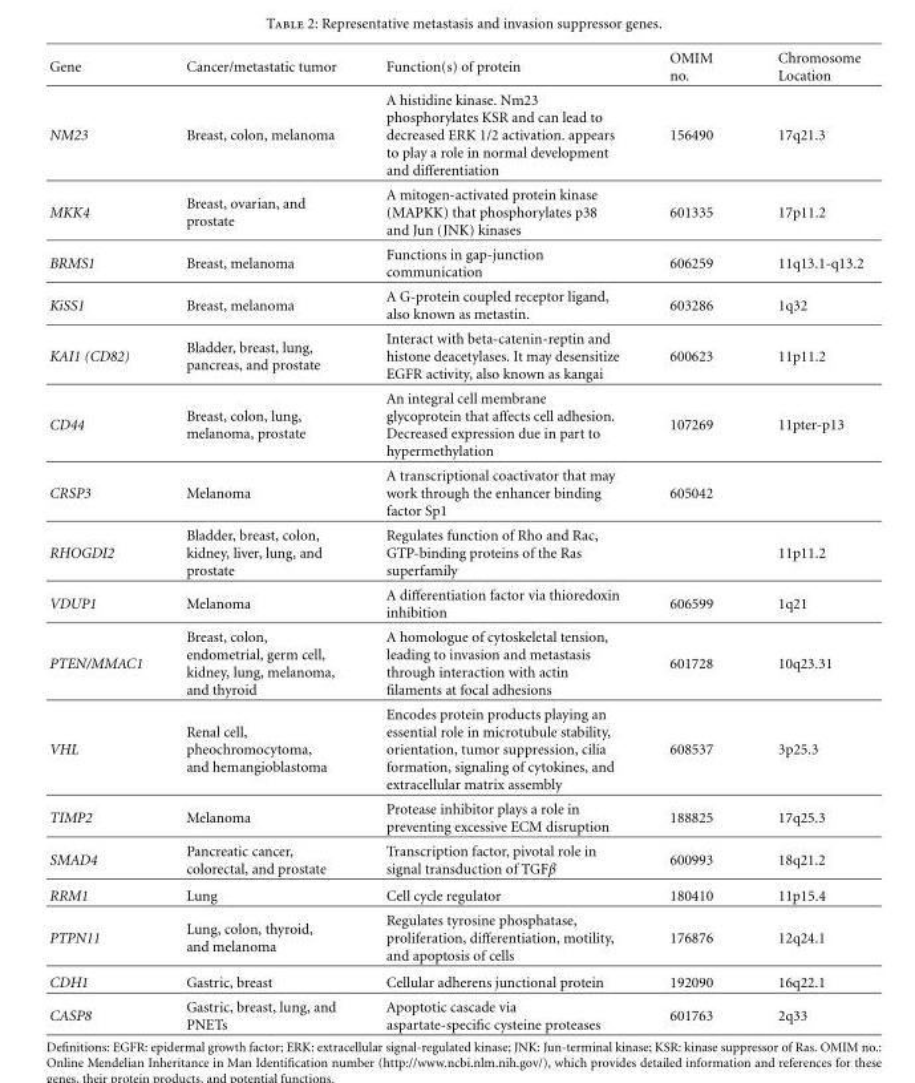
<table><thead><tr><td>Gene</td><td>Cancer/metastatic tumor</td><td>Function(s) of protein</td><td>OMIM no.</td><td>Chromosome Location</td></tr></thead><tbody><tr><td>NM23</td><td>Breast, colon, melanoma</td><td>A histidine kinase. Nm23 phosphorylates KSR and can lead to decreased ERK 1/2 activation. appears to play a role in normal development and differentiation</td><td>156490</td><td>17q21.3</td></tr><tr><td>MKK4</td><td>Breast, ovarian, and prostate</td><td>A mitogen-activated protein kinase (MAPKK) that phosphorylates p38 and Jun (JNK) kinases</td><td>601335</td><td>17p11.2</td></tr><tr><td>BRMS1</td><td>Breast, melanoma</td><td>Functions in gap-junction communication</td><td>606259</td><td>11q13.1-q13.2</td></tr><tr><td>KiSS1</td><td>Breast, melanoma</td><td>A G-protein coupled receptor ligand, also known as metastin.</td><td>603286</td><td>1q32</td></tr><tr><td>KAI1 (CD82)</td><td>Bladder, breast, lung, pancreas, and prostate</td><td>Interact with beta-catenin-reptin and histone deacetylases. It may desensitize EGFR activity, also known as kangai</td><td>600623</td><td>11p11.2</td></tr><tr><td>CD44</td><td>Breast, colon, lung, melanoma, prostate</td><td>An integral cell membrane glycoprotein that affects cell adhesion. Decreased expression due in part to hypermethylation</td><td>107269</td><td>11pter-p13</td></tr><tr><td>CRSP3</td><td>Melanoma</td><td>A transcriptional coactivator that may work through the enhancer binding factor Sp1</td><td>605042</td><td></td></tr><tr><td>RHOGDI2</td><td>Bladder, breast, colon, kidney, liver, lung, and prostate</td><td>Regulates function of Rho and Rac, GTP-binding proteins of the Ras superfamily</td><td></td><td>11p11.2</td></tr><tr><td>VDUP1</td><td>Melanoma</td><td>A differentiation factor via thioredoxin inhibition</td><td>606599</td><td>1q21</td></tr><tr><td>PTEN/MMAC1</td><td>Breast, colon, endometrial, germ cell, kidney, lung, melanoma, and thyroid</td><td>A homologue of cytoskeletal tension, leading to invasion and metastasis through interaction with actin filaments at focal adhesions</td><td>601728</td><td>10q23.31</td></tr><tr><td>VHL</td><td>Renal cell, pheochromocytoma, and hemangioblastoma</td><td>Encodes protein products playing an essential role in microtubule stability, orientation, tumor suppression, cilia formation, signaling of cytokines, and extracellular matrix assembly</td><td>608537</td><td>3p25.3</td></tr><tr><td>TIMP2</td><td>Melanoma</td><td>Protease inhibitor plays a role in preventing excessive ECM disruption</td><td>188825</td><td>17q25.3</td></tr><tr><td>SMAD4</td><td>Pancreatic cancer, colorectal, and prostate</td><td>Transcription factor, pivotal role in signal transduction of TGFβ</td><td>600993</td><td>18q21.2</td></tr><tr><td>RRM1</td><td>Lung</td><td>Cell cycle regulator</td><td>180410</td><td>11p15.4</td></tr><tr><td>PTPN11</td><td>Lung, colon, thyroid, and melanoma</td><td>Regulates tyrosine phosphatase, proliferation, differentiation, motility, and apoptosis of cells</td><td>176876</td><td>12q24.1</td></tr><tr><td>CDH1</td><td>Gastric, breast</td><td>Cellular adherens junctional protein</td><td>192090</td><td>16q22.1</td></tr><tr><td>CASP8</td><td>Gastric, breast, lung, and PNETs</td><td>Apoptotic cascade via aspartate-specific cysteine proteases</td><td>601763</td><td>2q33</td></tr></tbody></table>